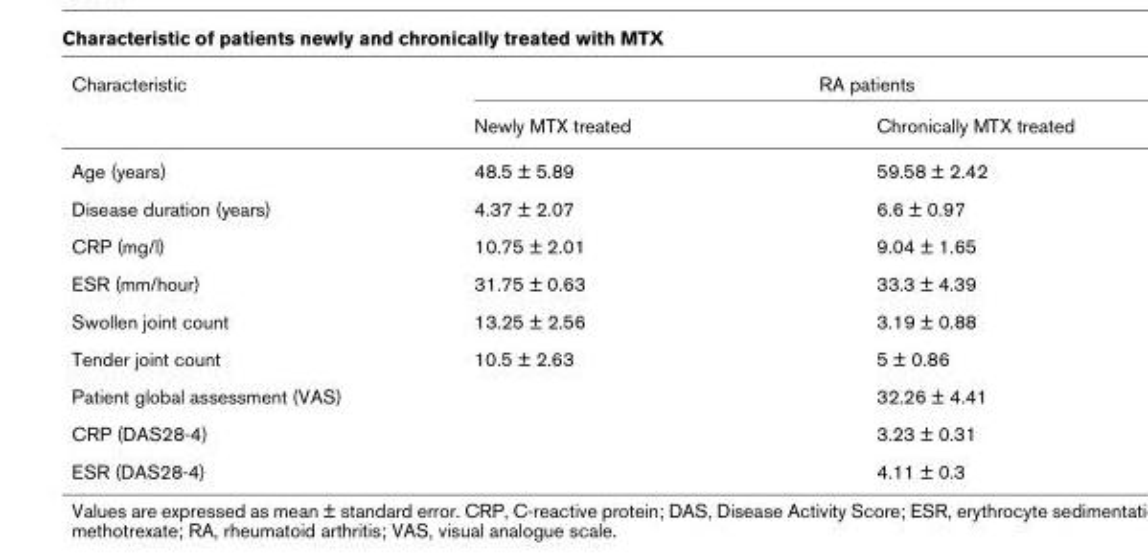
<table><thead><tr><td rowspan="2">Characteristic</td><td colspan="2">RA patients</td></tr><tr><td>Newly MTX treated</td><td>Chronically MTX treated</td></tr></thead><tbody><tr><td>Age (years)</td><td>48.5 ± 5.89</td><td>59.58 ± 2.42</td></tr><tr><td>Disease duration (years)</td><td>4.37 ± 2.07</td><td>6.6 ± 0.97</td></tr><tr><td>CRP (mg/l)</td><td>10.75 ± 2.01</td><td>9.04 ± 1.65</td></tr><tr><td>ESR (mm/hour)</td><td>31.75 ± 0.63</td><td>33.3 ± 4.39</td></tr><tr><td>Swollen joint count</td><td>13.25 ± 2.56</td><td>3.19 ± 0.88</td></tr><tr><td>Tender joint count</td><td>10.5 ± 2.63</td><td>5 ± 0.86</td></tr><tr><td>Patient global assessment (VAS)</td><td></td><td>32.26 ± 4.41</td></tr><tr><td>CRP (DAS28-4)</td><td></td><td>3.23 ± 0.31</td></tr><tr><td>ESR (DAS28-4)</td><td></td><td>4.11 ± 0.3</td></tr></tbody></table>